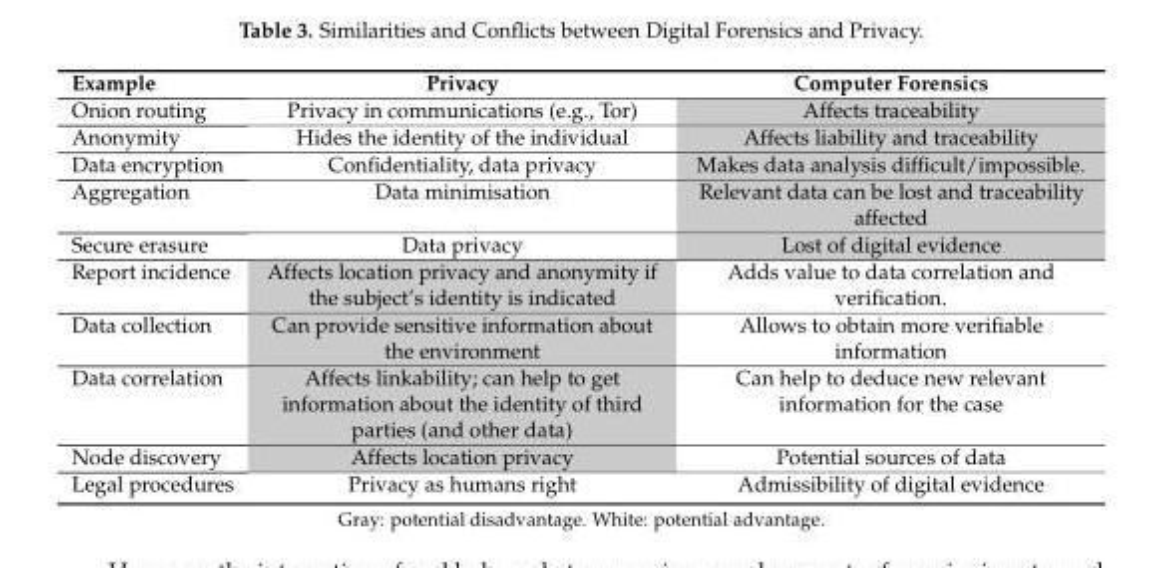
<table><thead><tr><td>Example</td><td>Privacy</td><td>Computer Forensics</td></tr></thead><tbody><tr><td>Onion routing</td><td>Privacy in communications (e.g., Tor)</td><td>Affects traceability</td></tr><tr><td>Anonymity</td><td>Hides the identity of the individual</td><td>Affects liability and traceability</td></tr><tr><td>Data encryption</td><td>Confidentiality, data privacy</td><td>Makes data analysis difficult/impossible.</td></tr><tr><td>Aggregation</td><td>Data minimisation</td><td>Relevant data can be lost and traceability affected</td></tr><tr><td>Secure erasure</td><td>Data privacy</td><td>Lost of digital evidence</td></tr><tr><td>Report incidence</td><td>Affects location privacy and anonymity if the subject’s identity is indicated</td><td>Adds value to data correlation and verification.</td></tr><tr><td>Data collection</td><td>Can provide sensitive information about the environment</td><td>Allows to obtain more verifiable information</td></tr><tr><td>Data correlation</td><td>Affects linkability; can help to get information about the identity of third parties (and other data)</td><td>Can help to deduce new relevant information for the case</td></tr><tr><td>Node discovery</td><td>Affects location privacy</td><td>Potential sources of data</td></tr><tr><td>Legal procedures</td><td>Privacy as humans right</td><td>Admissibility of digital evidence</td></tr></tbody></table>